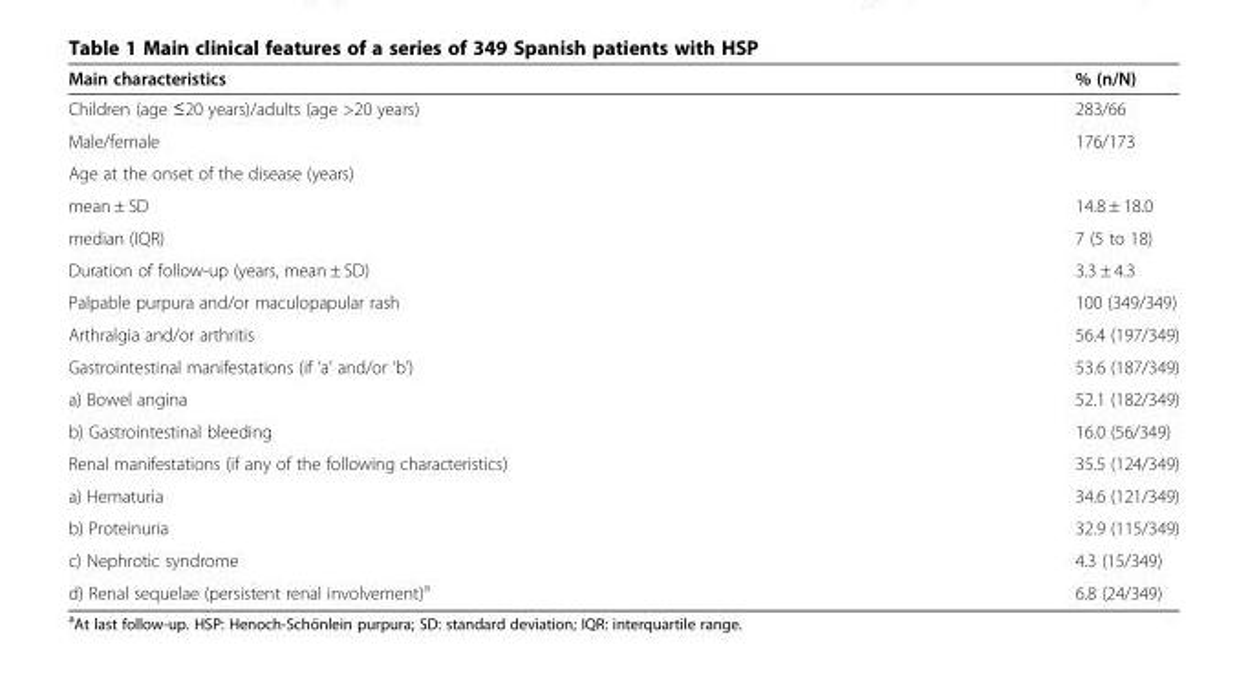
<table><thead><tr><td>Main characteristics</td><td>% (n/N)</td></tr></thead><tbody><tr><td>Children (age ≤20 years)/adults (age &gt;20 years)</td><td>283/66</td></tr><tr><td>Male/female</td><td>176/173</td></tr><tr><td colspan="2">Age at the onset of the disease (years)</td></tr><tr><td>mean ± SD</td><td>14.8 ± 18.0</td></tr><tr><td>median (IQR)</td><td>7 (5 to 18)</td></tr><tr><td>Duration of follow-up (years, mean ± SD)</td><td>3.3 ± 4.3</td></tr><tr><td>Palpable purpura and/or maculopapular rash</td><td>100 (349/349)</td></tr><tr><td>Arthralgia and/or arthritis</td><td>56.4 (197/349)</td></tr><tr><td>Gastrointestinal manifestations (if ‘a’ and/or ‘b’)</td><td>53.6 (187/349)</td></tr><tr><td>a) Bowel angina</td><td>52.1 (182/349)</td></tr><tr><td>b) Gastrointestinal bleeding</td><td>16.0 (56/349)</td></tr><tr><td>Renal manifestations (if any of the following characteristics)</td><td>35.5 (124/349)</td></tr><tr><td>a) Hematuria</td><td>34.6 (121/349)</td></tr><tr><td>b) Proteinuria</td><td>32.9 (115/349)</td></tr><tr><td>c) Nephrotic syndrome</td><td>4.3 (15/349)</td></tr><tr><td>d) Renal sequelae (persistent renal involvement)<sup>a</sup></td><td>6.8 (24/349)</td></tr></tbody></table>